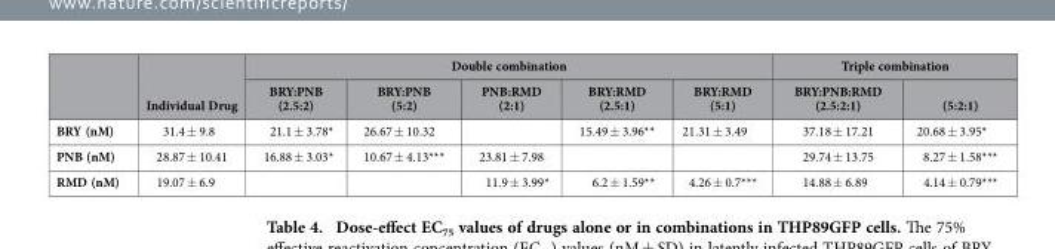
<table><thead><tr><td rowspan="2"></td><td rowspan="2">Individual Drug</td><td colspan="5">Double combination</td><td colspan="2">Triple combination</td></tr><tr><td>BRY:PNB (2.5:2)</td><td>BRY:PNB (5:2)</td><td>PNB:RMD (2:1)</td><td>BRY:RMD (2.5:1)</td><td>BRY:RMD (5:1)</td><td>BRY:PNB:RMD (2.5:2:1)</td><td>(5:2:1)</td></tr></thead><tbody><tr><td>BRY (nM)</td><td>31.4 ± 9.8</td><td>21.1 ± 3.78*</td><td>26.67 ± 10.32</td><td></td><td>15.49 ± 3.96**</td><td>21.31 ± 3.49</td><td>37.18 ± 17.21</td><td>20.68 ± 3.95*</td></tr><tr><td>PNB (nM)</td><td>28.87 ± 10.41</td><td>16.88 ± 3.03*</td><td>10.67 ± 4.13***</td><td>23.81 ± 7.98</td><td></td><td></td><td>29.74 ± 13.75</td><td>8.27 ± 1.58***</td></tr><tr><td>RMD (nM)</td><td>19.07 ± 6.9</td><td></td><td></td><td>11.9 ± 3.99*</td><td>6.2 ± 1.59**</td><td>4.26 ± 0.7***</td><td>14.88 ± 6.89</td><td>4.14 ± 0.79***</td></tr></tbody></table>